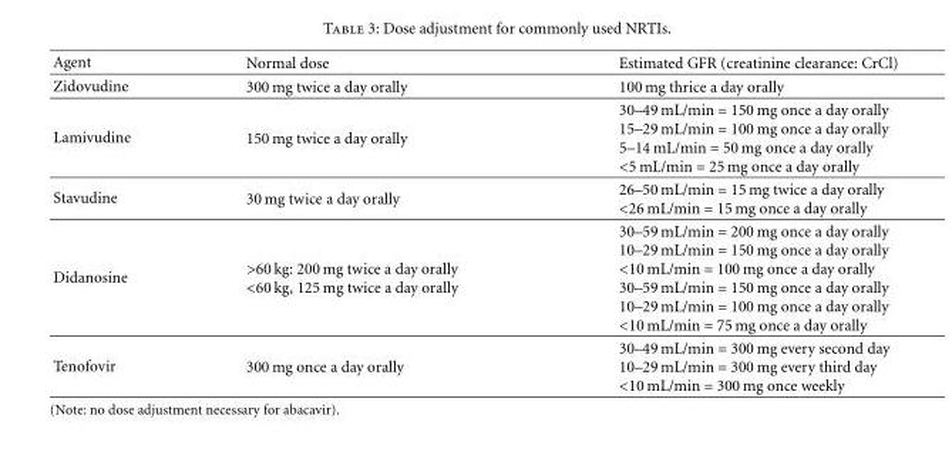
<table><thead><tr><td>Agent</td><td>Normal dose</td><td>Estimated GFR (creatinine clearance: CrCl)</td></tr></thead><tbody><tr><td>Zidovudine</td><td>300 mg twice a day orally</td><td>100 mg thrice a day orally</td></tr><tr><td>Lamivudine</td><td>150 mg twice a day orally</td><td>30–49 mL/min = 150 mg once a day orally 15–29 mL/min = 100 mg once a day orally 5–14 mL/min = 50 mg once a day orally &lt;5 mL/min = 25 mg once a day orally</td></tr><tr><td>Stavudine</td><td>30 mg twice a day orally</td><td>26–50 mL/min = 15 mg twice a day orally &lt;26 mL/min = 15 mg once a day orally</td></tr><tr><td>Didanosine</td><td>&gt;60 kg: 200 mg twice a day orally &lt;60 kg, 125 mg twice a day orally</td><td>30–59 mL/min = 200 mg once a day orally 10–29 mL/min = 150 mg once a day orally &lt;10 mL/min = 100 mg once a day orally 30–59 mL/min = 150 mg once a day orally 10–29 mL/min = 100 mg once a day orally &lt;10 mL/min = 75 mg once a day orally</td></tr><tr><td>Tenofovir</td><td>300 mg once a day orally</td><td>30–49 mL/min = 300 mg every second day 10–29 mL/min = 300 mg every third day &lt;10 mL/min = 300 mg once weekly</td></tr></tbody></table>